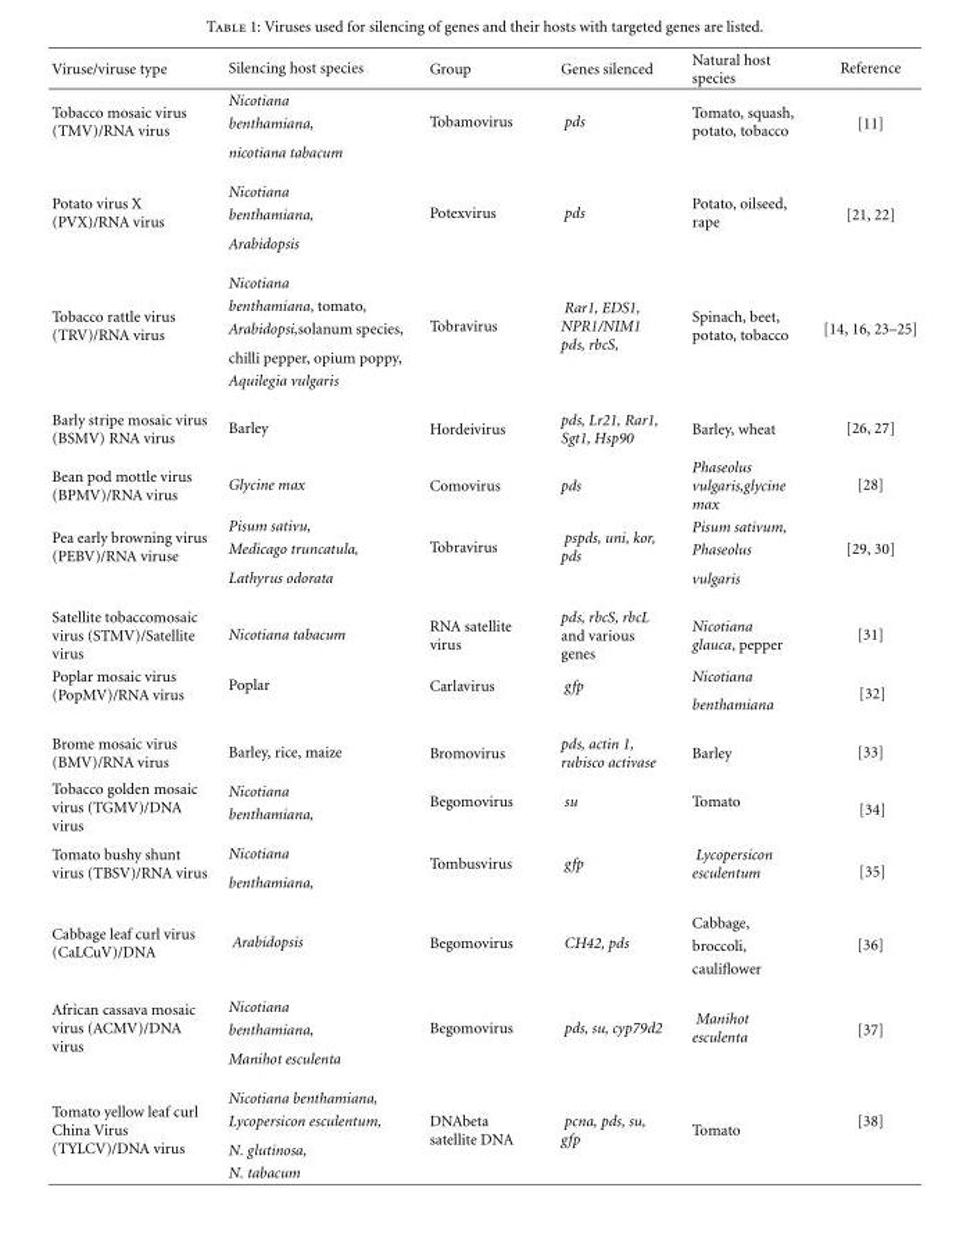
<table><thead><tr><td>Viruse/viruse type</td><td>Silencing host species</td><td>Group</td><td>Genes silenced</td><td>Natural host species</td><td>Reference</td></tr></thead><tbody><tr><td rowspan="3">Tobacco mosaic virus (TMV)/RNA virus</td><td>Nicotiana</td><td rowspan="3">Tobamovirus</td><td rowspan="3">pds</td><td rowspan="3">Tomato, squash, potato, tobacco</td><td></td></tr><tr><td>benthamiana,</td><td>[11]</td></tr><tr><td>nicotiana tabacum</td><td></td></tr><tr><td rowspan="3">Potato virus X (PVX)/RNA virus</td><td>Nicotiana</td><td rowspan="3">Potexvirus</td><td rowspan="3">pds</td><td rowspan="3">Potato, oilseed, rape</td><td></td></tr><tr><td>benthamiana,</td><td>[21, 22]</td></tr><tr><td>Arabidopsis</td><td></td></tr><tr><td rowspan="5">Tobacco rattle virus (TRV)/RNA virus</td><td>Nicotiana</td><td rowspan="5">Tobravirus</td><td rowspan="5">Rar1, EDS1, NPR1/NIM1 pds, rbcS,</td><td rowspan="5">Spinach, beet, potato, tobacco</td><td></td></tr><tr><td>benthamiana, tomato,</td><td></td></tr><tr><td>Arabidopsi,solanum species,</td><td>[14, 16, 23–25]</td></tr><tr><td>chilli pepper, opium poppy,</td><td></td></tr><tr><td>Aquilegia vulgaris</td><td></td></tr><tr><td>Barly stripe mosaic virus (BSMV) RNA virus</td><td>Barley</td><td>Hordeivirus</td><td>pds, Lr21, Rar1, Sgt1, Hsp90</td><td>Barley, wheat</td><td>[26, 27]</td></tr><tr><td>Bean pod mottle virus (BPMV)/RNA virus</td><td>Glycine max</td><td>Comovirus</td><td>pds</td><td>Phaseolus vulgaris,glycine max</td><td>[28]</td></tr><tr><td rowspan="3">Pea early browning virus (PEBV)/RNA viruse</td><td>Pisum sativu,</td><td rowspan="3">Tobravirus</td><td rowspan="3">pspds, uni, kor, pds</td><td>Pisum sativum,</td><td></td></tr><tr><td>Medicago truncatula,</td><td>Phaseolus</td><td>[29, 30]</td></tr><tr><td>Lathyrus odorata</td><td>vulgaris</td><td></td></tr><tr><td>Satellite tobaccomosaic virus (STMV)/Satellite virus</td><td>Nicotiana tabacum</td><td>RNA satellite virus</td><td>pds, rbcS, rbcL and various genes</td><td>Nicotiana glauca, pepper</td><td>[31]</td></tr><tr><td rowspan="2">Poplar mosaic virus (PopMV)/RNA virus</td><td rowspan="2">Poplar</td><td rowspan="2">Carlavirus</td><td rowspan="2">gfp</td><td>Nicotiana</td><td rowspan="2">[32]</td></tr><tr><td>benthamiana</td></tr><tr><td>Brome mosaic virus (BMV)/RNA virus</td><td>Barley, rice, maize</td><td>Bromovirus</td><td>pds, actin 1, rubisco activase</td><td>Barley</td><td>[33]</td></tr><tr><td rowspan="2">Tobacco golden mosaic virus (TGMV)/DNA virus</td><td>Nicotiana</td><td rowspan="2">Begomovirus</td><td rowspan="2">su</td><td rowspan="2">Tomato</td><td rowspan="2">[34]</td></tr><tr><td>benthamiana,</td></tr><tr><td rowspan="2">Tomato bushy shunt virus (TBSV)/RNA virus</td><td>Nicotiana</td><td rowspan="2">Tombusvirus</td><td rowspan="2">gfp</td><td rowspan="2">Lycopersicon esculentum</td><td rowspan="2">[35]</td></tr><tr><td>benthamiana,</td></tr><tr><td rowspan="3">Cabbage leaf curl virus (CaLCuV)/DNA</td><td rowspan="3">Arabidopsis</td><td rowspan="3">Begomovirus</td><td rowspan="3">CH42, pds</td><td>Cabbage,</td><td></td></tr><tr><td>broccoli,</td><td>[36]</td></tr><tr><td>cauliflower</td><td></td></tr><tr><td rowspan="3">African cassava mosaic virus (ACMV)/DNA virus</td><td>Nicotiana</td><td rowspan="3">Begomovirus</td><td rowspan="3">pds, su, cyp79d2</td><td rowspan="3">Manihot esculenta</td><td></td></tr><tr><td>benthamiana,</td><td>[37]</td></tr><tr><td>Manihot esculenta</td><td></td></tr><tr><td rowspan="4">Tomato yellow leaf curl China Virus (TYLCV)/DNA virus</td><td>Nicotiana benthamiana,</td><td rowspan="4">DNAbeta satellite DNA</td><td rowspan="4">pcna, pds, su, gfp</td><td rowspan="4">Tomato</td><td></td></tr><tr><td>Lycopersicon esculentum,</td><td>[38]</td></tr><tr><td>N. glutinosa,</td><td></td></tr><tr><td>N. tabacum</td><td></td></tr></tbody></table>